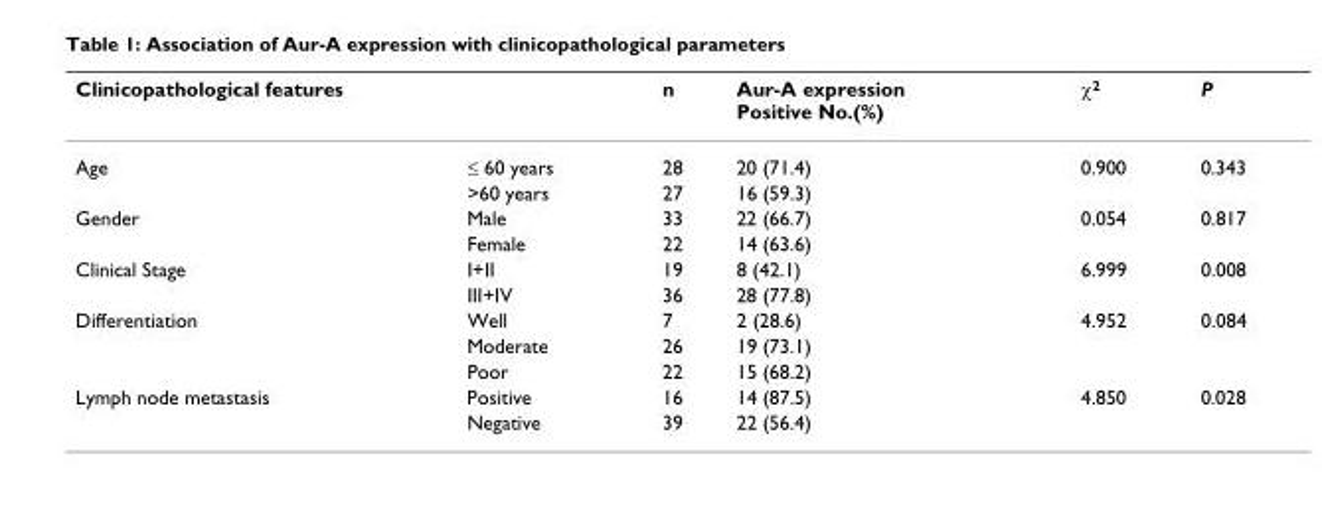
<table><thead><tr><td colspan="2">Clinicopathological features</td><td rowspan="2">n 28</td><td rowspan="2">Aur-A expression Positive No.(%) 20 (71.4)</td><td rowspan="2">χ<sup>2</sup> 0.900</td><td rowspan="2">P 0.343</td></tr><tr><td>Age</td><td>≤ 60 years</td></tr></thead><tbody><tr><td></td><td>&gt;60 years</td><td>27</td><td>16 (59.3)</td><td></td><td></td></tr><tr><td rowspan="2">Gender</td><td>Male</td><td>33</td><td>22 (66.7)</td><td>0.054</td><td>0.817</td></tr><tr><td>Female</td><td>22</td><td>14 (63.6)</td><td></td><td></td></tr><tr><td rowspan="2">Clinical Stage</td><td>I+II</td><td>19</td><td>8 (42.1)</td><td>6.999</td><td>0.008</td></tr><tr><td>III+IV</td><td>36</td><td>28 (77.8)</td><td></td><td></td></tr><tr><td rowspan="3">Differentiation</td><td>Well</td><td>7</td><td>2 (28.6)</td><td>4.952</td><td>0.084</td></tr><tr><td>Moderate</td><td>26</td><td>19 (73.1)</td><td></td><td></td></tr><tr><td>Poor</td><td>22</td><td>15 (68.2)</td><td></td><td></td></tr><tr><td rowspan="2">Lymph node metastasis</td><td>Positive</td><td>16</td><td>14 (87.5)</td><td>4.850</td><td>0.028</td></tr><tr><td>Negative</td><td>39</td><td>22 (56.4)</td><td></td><td></td></tr></tbody></table>